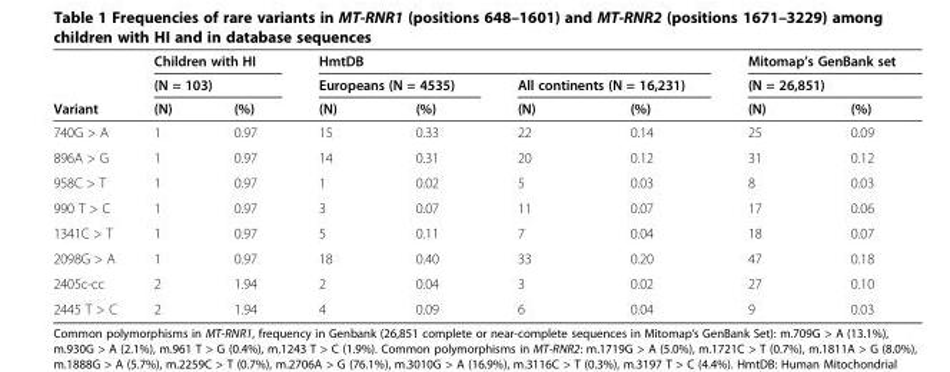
<table><thead><tr><td rowspan="3">Variant</td><td rowspan="2" colspan="2">Children with HI (N = 103)</td><td colspan="4">HmtDB</td><td rowspan="2" colspan="2">Mitomap’s GenBank set (N = 26,851)</td></tr><tr><td colspan="2">Europeans (N = 4535)</td><td colspan="2">All continents (N = 16,231)</td></tr><tr><td>(N)</td><td>(%)</td><td>(N)</td><td>(%)</td><td>(N)</td><td>(%)</td><td>(N)</td><td>(%)</td></tr></thead><tbody><tr><td>740G &gt; A</td><td>1</td><td>0.97</td><td>15</td><td>0.33</td><td>22</td><td>0.14</td><td>25</td><td>0.09</td></tr><tr><td>896A &gt; G</td><td>1</td><td>0.97</td><td>14</td><td>0.31</td><td>20</td><td>0.12</td><td>31</td><td>0.12</td></tr><tr><td>958C &gt; T</td><td>1</td><td>0.97</td><td>1</td><td>0.02</td><td>5</td><td>0.03</td><td>8</td><td>0.03</td></tr><tr><td>990 T &gt; C</td><td>1</td><td>0.97</td><td>3</td><td>0.07</td><td>11</td><td>0.07</td><td>17</td><td>0.06</td></tr><tr><td>1341C &gt; T</td><td>1</td><td>0.97</td><td>5</td><td>0.11</td><td>7</td><td>0.04</td><td>18</td><td>0.07</td></tr><tr><td>2098G &gt; A</td><td>1</td><td>0.97</td><td>18</td><td>0.40</td><td>33</td><td>0.20</td><td>47</td><td>0.18</td></tr><tr><td>2405c-cc</td><td>2</td><td>1.94</td><td>2</td><td>0.04</td><td>3</td><td>0.02</td><td>27</td><td>0.10</td></tr><tr><td>2445 T &gt; C</td><td>2</td><td>1.94</td><td>4</td><td>0.09</td><td>6</td><td>0.04</td><td>9</td><td>0.03</td></tr></tbody></table>